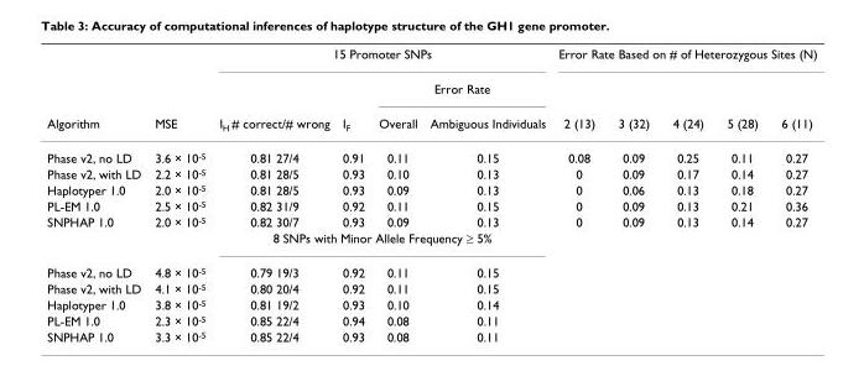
<table><thead><tr><td rowspan="3">Algorithm</td><td rowspan="3">MSE</td><td colspan="4">15 Promoter SNPs</td><td colspan="5">Error Rate Based on # of Heterozygous Sites (N)</td></tr><tr><td rowspan="2">I<sub>H</sub> # correct/# wrong</td><td rowspan="2">I<sub>F</sub></td><td colspan="2">Error Rate</td><td rowspan="2">2 (13)</td><td rowspan="2">3 (32)</td><td rowspan="2">4 (24)</td><td rowspan="2">5 (28)</td><td rowspan="2">6 (11)</td></tr><tr><td>Overall</td><td>Ambiguous Individuals</td></tr></thead><tbody><tr><td>Phase v2, no LD</td><td>3.6 × 10<sup>-5</sup></td><td>0.81 27/4</td><td>0.91</td><td>0.11</td><td>0.15</td><td>0.08</td><td>0.09</td><td>0.25</td><td>0.11</td><td>0.27</td></tr><tr><td>Phase v2, with LD</td><td>2.2 × 10<sup>-5</sup></td><td>0.81 28/5</td><td>0.93</td><td>0.10</td><td>0.13</td><td>0</td><td>0.09</td><td>0.17</td><td>0.14</td><td>0.27</td></tr><tr><td>Haplotyper 1.0</td><td>2.0 × 10<sup>-5</sup></td><td>0.81 28/5</td><td>0.93</td><td>0.09</td><td>0.13</td><td>0</td><td>0.06</td><td>0.13</td><td>0.18</td><td>0.27</td></tr><tr><td>PL-EM 1.0</td><td>2.5 × 10<sup>-5</sup></td><td>0.82 31/9</td><td>0.92</td><td>0.11</td><td>0.15</td><td>0</td><td>0.09</td><td>0.13</td><td>0.21</td><td>0.36</td></tr><tr><td rowspan="2">SNPHAP 1.0</td><td>2.0 × 10<sup>-5</sup></td><td>0.82 30/7</td><td>0.93</td><td>0.09</td><td>0.13</td><td>0</td><td>0.09</td><td>0.13</td><td>0.14</td><td>0.27</td></tr><tr><td></td><td colspan="4">8 SNPs with Minor Allele Frequency ≥ 5%</td><td></td><td></td><td></td><td></td><td></td></tr><tr><td>Phase v2, no LD</td><td>4.8 × 10<sup>-5</sup></td><td>0.79 19/3</td><td>0.92</td><td>0.11</td><td>0.15</td><td></td><td></td><td></td><td></td><td></td></tr><tr><td>Phase v2, with LD</td><td>4.1 × 10<sup>-5</sup></td><td>0.80 20/4</td><td>0.92</td><td>0.11</td><td>0.15</td><td></td><td></td><td></td><td></td><td></td></tr><tr><td>Haplotyper 1.0</td><td>3.8 × 10<sup>-5</sup></td><td>0.81 19/2</td><td>0.93</td><td>0.10</td><td>0.14</td><td></td><td></td><td></td><td></td><td></td></tr><tr><td>PL-EM 1.0</td><td>2.3 × 10<sup>-5</sup></td><td>0.85 22/4</td><td>0.94</td><td>0.08</td><td>0.11</td><td></td><td></td><td></td><td></td><td></td></tr><tr><td>SNPHAP 1.0</td><td>3.3 × 10<sup>-5</sup></td><td>0.85 22/4</td><td>0.93</td><td>0.08</td><td>0.11</td><td></td><td></td><td></td><td></td><td></td></tr></tbody></table>